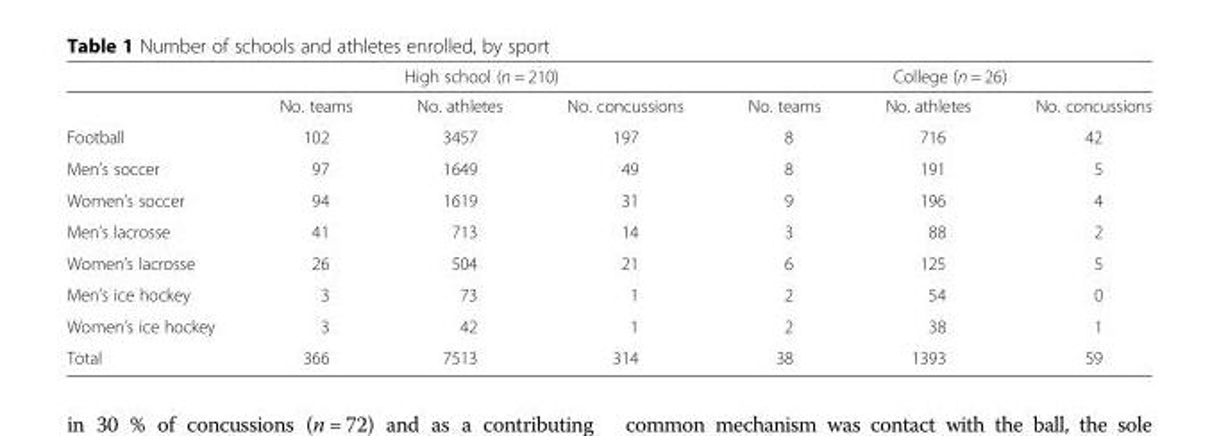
<table><thead><tr><td rowspan="2"></td><td colspan="3">High school (n = 210)</td><td colspan="3">College (n = 26)</td></tr><tr><td>No. teams</td><td>No. athletes</td><td>No. concussions</td><td>No. teams</td><td>No. athletes</td><td>No. concussions</td></tr></thead><tbody><tr><td>Football</td><td>102</td><td>3457</td><td>197</td><td>8</td><td>716</td><td>42</td></tr><tr><td>Men’s soccer</td><td>97</td><td>1649</td><td>49</td><td>8</td><td>191</td><td>5</td></tr><tr><td>Women’s soccer</td><td>94</td><td>1619</td><td>31</td><td>9</td><td>196</td><td>4</td></tr><tr><td>Men’s lacrosse</td><td>41</td><td>713</td><td>14</td><td>3</td><td>88</td><td>2</td></tr><tr><td>Women’s lacrosse</td><td>26</td><td>504</td><td>21</td><td>6</td><td>125</td><td>5</td></tr><tr><td>Men’s ice hockey</td><td>3</td><td>73</td><td>1</td><td>2</td><td>54</td><td>0</td></tr><tr><td>Women’s ice hockey</td><td>3</td><td>42</td><td>1</td><td>2</td><td>38</td><td>1</td></tr><tr><td>Total</td><td>366</td><td>7513</td><td>314</td><td>38</td><td>1393</td><td>59</td></tr></tbody></table>